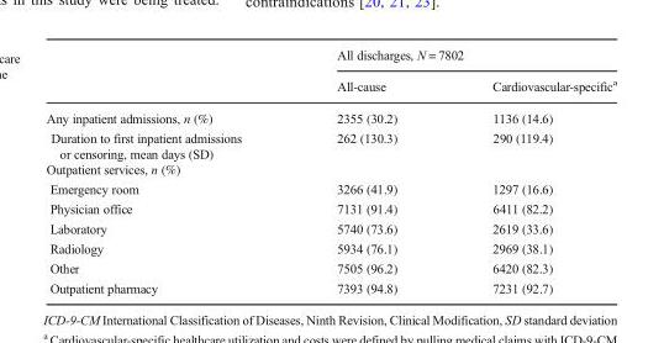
<table><thead><tr><td rowspan="2"></td><td colspan="2">All discharges, N = 7802</td></tr><tr><td>All-cause</td><td>Cardiovascular-specific<sup>a</sup></td></tr></thead><tbody><tr><td>Any inpatient admissions, n (%)</td><td>2355 (30.2)</td><td>1136 (14.6)</td></tr><tr><td>Duration to first inpatient admissions or censoring, mean days (SD)</td><td>262 (130.3)</td><td>290 (119.4)</td></tr><tr><td colspan="3">Outpatient services, n (%)</td></tr><tr><td>Emergency room</td><td>3266 (41.9)</td><td>1297 (16.6)</td></tr><tr><td>Physician office</td><td>7131 (91.4)</td><td>6411 (82.2)</td></tr><tr><td>Laboratory</td><td>5740 (73.6)</td><td>2619 (33.6)</td></tr><tr><td>Radiology</td><td>5934 (76.1)</td><td>2969 (38.1)</td></tr><tr><td>Other</td><td>7505 (96.2)</td><td>6420 (82.3)</td></tr><tr><td>Outpatient pharmacy</td><td>7393 (94.8)</td><td>7231 (92.7)</td></tr></tbody></table>